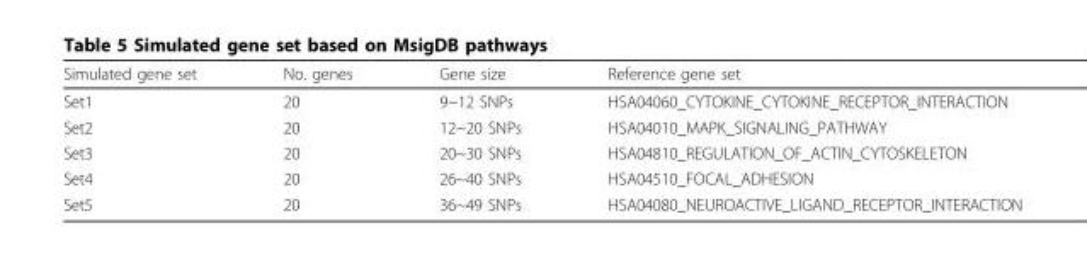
<table><thead><tr><td>Simulated gene set</td><td>No. genes</td><td>Gene size</td><td>Reference gene set</td></tr></thead><tbody><tr><td>Set1</td><td>20</td><td>9~12 SNPs</td><td>HSA04060_CYTOKINE_CYTOKINE_RECEPTOR_INTERACTION</td></tr><tr><td>Set2</td><td>20</td><td>12~20 SNPs</td><td>HSA04010_MAPK_SIGNALING_PATHWAY</td></tr><tr><td>Set3</td><td>20</td><td>20~30 SNPs</td><td>HSA04810_REGULATION_OF_ACTIN_CYTOSKELETON</td></tr><tr><td>Set4</td><td>20</td><td>26~40 SNPs</td><td>HSA04510_FOCAL_ADHESION</td></tr><tr><td>Set5</td><td>20</td><td>36~49 SNPs</td><td>HSA04080_NEUROACTIVE_LIGAND_RECEPTOR_INTERACTION</td></tr></tbody></table>